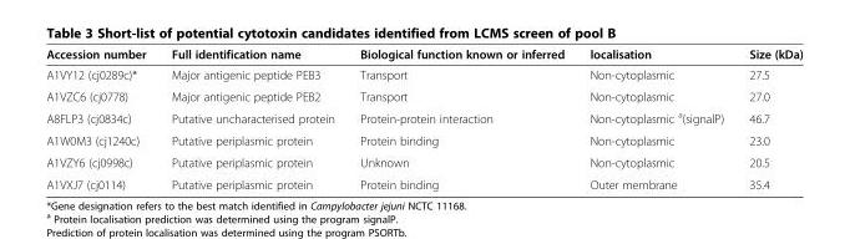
<table><thead><tr><td>Accession number</td><td>Full identification name</td><td>Biological function known or inferred</td><td>localisation</td><td>Size (kDa)</td></tr></thead><tbody><tr><td>A1VY12 (cj0289c)*</td><td>Major antigenic peptide PEB3</td><td>Transport</td><td>Non-cytoplasmic</td><td>27.5</td></tr><tr><td>A1VZC6 (cj0778)</td><td>Major antigenic peptide PEB2</td><td>Transport</td><td>Non-cytoplasmic</td><td>27.0</td></tr><tr><td>A8FLP3 (cj0834c)</td><td>Putative uncharacterised protein</td><td>Protein-protein interaction</td><td>Non-cytoplasmic <sup>a</sup>(signalP)</td><td>46.7</td></tr><tr><td>A1W0M3 (cj1240c)</td><td>Putative periplasmic protein</td><td>Protein binding</td><td>Non-cytoplasmic</td><td>23.0</td></tr><tr><td>A1VZY6 (cj0998c)</td><td>Putative periplasmic protein</td><td>Unknown</td><td>Non-cytoplasmic</td><td>20.5</td></tr><tr><td>A1VXJ7 (cj0114)</td><td>Putative periplasmic protein</td><td>Protein binding</td><td>Outer membrane</td><td>35.4</td></tr></tbody></table>